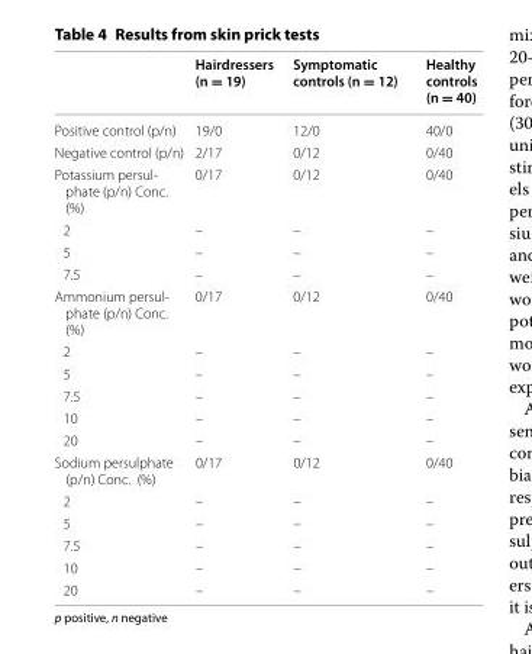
<table><thead><tr><td></td><td>Hairdressers (n = 19)</td><td>Symptomatic controls (n = 12)</td><td>Healthy controls (n = 40)</td></tr></thead><tbody><tr><td>Positive control (p/n)</td><td>19/0</td><td>12/0</td><td>40/0</td></tr><tr><td>Negative control (p/n)</td><td>2/17</td><td>0/12</td><td>0/40</td></tr><tr><td>Potassium persul‑ phate (p/n) Conc. (%)</td><td>0/17</td><td>0/12</td><td>0/40</td></tr><tr><td>2</td><td>–</td><td>–</td><td>–</td></tr><tr><td>5</td><td>–</td><td>–</td><td>–</td></tr><tr><td>7.5</td><td>–</td><td>–</td><td>–</td></tr><tr><td>Ammonium persul‑ phate (p/n) Conc. (%)</td><td>0/17</td><td>0/12</td><td>0/40</td></tr><tr><td>2</td><td>–</td><td>–</td><td>–</td></tr><tr><td>5</td><td>–</td><td>–</td><td>–</td></tr><tr><td>7.5</td><td>–</td><td>–</td><td>–</td></tr><tr><td>10</td><td>–</td><td>–</td><td>–</td></tr><tr><td>20</td><td>–</td><td>–</td><td>–</td></tr><tr><td>Sodium persulphate (p/n) Conc. (%)</td><td>0/17</td><td>0/12</td><td>0/40</td></tr><tr><td>2</td><td>–</td><td>–</td><td>–</td></tr><tr><td>5</td><td>–</td><td>–</td><td>–</td></tr><tr><td>7.5</td><td>–</td><td>–</td><td>–</td></tr><tr><td>10</td><td>–</td><td>–</td><td>–</td></tr><tr><td>20</td><td>–</td><td>–</td><td>–</td></tr></tbody></table>